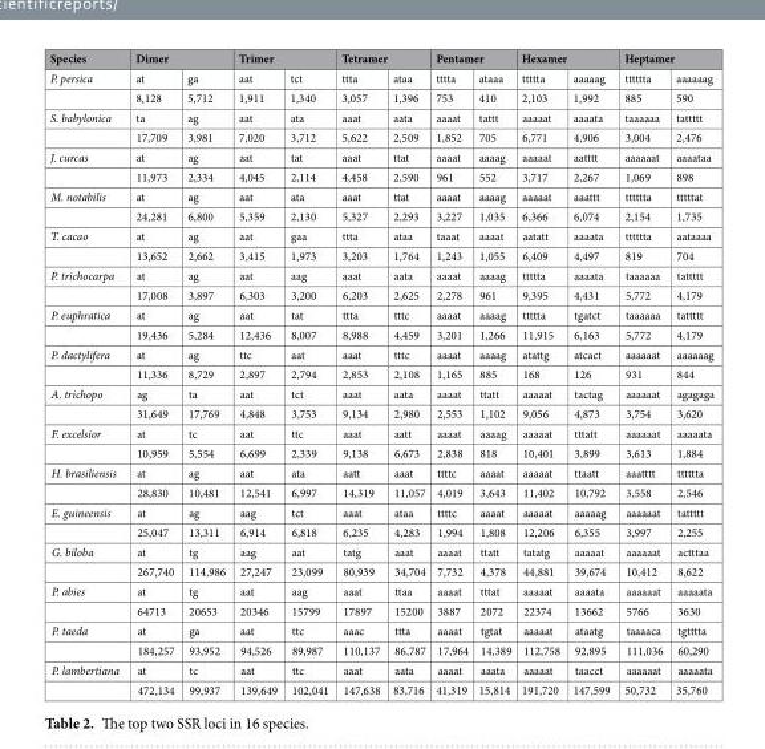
<table><thead><tr><td rowspan="2">Species P. persica</td><td colspan="2">Dimer</td><td colspan="2">Trimer</td><td colspan="2">Tetramer</td><td colspan="2">Pentamer</td><td colspan="2">Hexamer</td><td colspan="2">Heptamer</td></tr><tr><td>at</td><td>ga</td><td>aat</td><td>tct</td><td>ttta</td><td>ataa</td><td>tttta</td><td>ataaa</td><td>ttttta</td><td>aaaaag</td><td>tttttta</td><td>aaaaaag</td></tr></thead><tbody><tr><td></td><td>8,128</td><td>5,712</td><td>1,911</td><td>1,340</td><td>3,057</td><td>1,396</td><td>753</td><td>410</td><td>2,103</td><td>1,992</td><td>885</td><td>590</td></tr><tr><td rowspan="2">S. babylonica</td><td>ta</td><td>ag</td><td>aat</td><td>ata</td><td>aaat</td><td>aata</td><td>aaaat</td><td>tattt</td><td>aaaaat</td><td>aaaata</td><td>taaaaaa</td><td>tattttt</td></tr><tr><td>17,709</td><td>3,981</td><td>7,020</td><td>3,712</td><td>5,622</td><td>2,509</td><td>1,852</td><td>705</td><td>6,771</td><td>4,906</td><td>3,004</td><td>2,476</td></tr><tr><td rowspan="2">J. curcas</td><td>at</td><td>ag</td><td>aat</td><td>tat</td><td>aaat</td><td>ttat</td><td>aaaat</td><td>aaaag</td><td>aaaaat</td><td>aatttt</td><td>aaaaaat</td><td>aaaataa</td></tr><tr><td>11,973</td><td>2,334</td><td>4,045</td><td>2,114</td><td>4,458</td><td>2,590</td><td>961</td><td>552</td><td>3,717</td><td>2,267</td><td>1,069</td><td>898</td></tr><tr><td rowspan="2">M. notabilis</td><td>at</td><td>ag</td><td>aat</td><td>ata</td><td>aaat</td><td>ttat</td><td>aaaat</td><td>aaaag</td><td>aaaaat</td><td>aaattt</td><td>tttttta</td><td>tttttat</td></tr><tr><td>24,281</td><td>6,800</td><td>5,359</td><td>2,130</td><td>5,327</td><td>2,293</td><td>3,227</td><td>1,035</td><td>6,366</td><td>6,074</td><td>2,154</td><td>1,735</td></tr><tr><td rowspan="2">T. cacao</td><td>at</td><td>ag</td><td>aat</td><td>gaa</td><td>ttta</td><td>ataa</td><td>taaat</td><td>aaaat</td><td>aatatt</td><td>aaaata</td><td>tttttta</td><td>aataaaa</td></tr><tr><td>13,652</td><td>2,662</td><td>3,415</td><td>1,973</td><td>3,203</td><td>1,764</td><td>1,243</td><td>1,055</td><td>6,409</td><td>4,497</td><td>819</td><td>704</td></tr><tr><td rowspan="2">P. trichocarpa</td><td>at</td><td>ag</td><td>aat</td><td>aag</td><td>aaat</td><td>aata</td><td>aaaat</td><td>aaaag</td><td>ttttta</td><td>aaaata</td><td>taaaaaa</td><td>tattttt</td></tr><tr><td>17,008</td><td>3,897</td><td>6,303</td><td>3,200</td><td>6,203</td><td>2,625</td><td>2,278</td><td>961</td><td>9,395</td><td>4,431</td><td>5,772</td><td>4,179</td></tr><tr><td rowspan="2">P. euphratica</td><td>at</td><td>ag</td><td>aat</td><td>tat</td><td>ttta</td><td>tttc</td><td>aaaat</td><td>aaaag</td><td>ttttta</td><td>tgatct</td><td>taaaaaa</td><td>tattttt</td></tr><tr><td>19,436</td><td>5,284</td><td>12,436</td><td>8,007</td><td>8,988</td><td>4,459</td><td>3,201</td><td>1,266</td><td>11,915</td><td>6,163</td><td>5,772</td><td>4,179</td></tr><tr><td rowspan="2">P. dactylifera</td><td>at</td><td>ag</td><td>ttc</td><td>aat</td><td>aaat</td><td>tttc</td><td>aaaat</td><td>aaaag</td><td>atattg</td><td>atcact</td><td>aaaaaat</td><td>aaaaaag</td></tr><tr><td>11,336</td><td>8,729</td><td>2,897</td><td>2,794</td><td>2,853</td><td>2,108</td><td>1,165</td><td>885</td><td>168</td><td>126</td><td>931</td><td>844</td></tr><tr><td rowspan="2">A. trichopo</td><td>ag</td><td>ta</td><td>aat</td><td>tct</td><td>aaat</td><td>aata</td><td>aaaat</td><td>ttatt</td><td>aaaaat</td><td>tactag</td><td>aaaaaat</td><td>agagaga</td></tr><tr><td>31,649</td><td>17,769</td><td>4,848</td><td>3,753</td><td>9,134</td><td>2,980</td><td>2,553</td><td>1,102</td><td>9,056</td><td>4,873</td><td>3,754</td><td>3,620</td></tr><tr><td rowspan="2">F. excelsior</td><td>at</td><td>tc</td><td>aat</td><td>ttc</td><td>aaat</td><td>aatt</td><td>aaaat</td><td>aaaag</td><td>aaaaat</td><td>tttatt</td><td>aaaaaat</td><td>aaaaata</td></tr><tr><td>10,959</td><td>5,554</td><td>6,699</td><td>2,339</td><td>9,138</td><td>6,673</td><td>2,838</td><td>818</td><td>10,401</td><td>3,899</td><td>3,613</td><td>1,884</td></tr><tr><td rowspan="2">H. brasiliensis</td><td>at</td><td>ag</td><td>aat</td><td>ata</td><td>aatt</td><td>aaat</td><td>ttttc</td><td>aaaat</td><td>aaaaat</td><td>ttaatt</td><td>aaatttt</td><td>tttttta</td></tr><tr><td>28,830</td><td>10,481</td><td>12,541</td><td>6,997</td><td>14,319</td><td>11,057</td><td>4,019</td><td>3,643</td><td>11,402</td><td>10,792</td><td>3,558</td><td>2,546</td></tr><tr><td rowspan="2">E. guineensis</td><td>at</td><td>ag</td><td>aag</td><td>tct</td><td>aaat</td><td>ataa</td><td>ttttc</td><td>aaaat</td><td>aaaaat</td><td>aaaaag</td><td>aaaaaat</td><td>tattttt</td></tr><tr><td>25,047</td><td>13,311</td><td>6,914</td><td>6,818</td><td>6,235</td><td>4,283</td><td>1,994</td><td>1,808</td><td>12,206</td><td>6,355</td><td>3,997</td><td>2,255</td></tr><tr><td rowspan="2">G. biloba</td><td>at</td><td>tg</td><td>aag</td><td>aat</td><td>tatg</td><td>aaat</td><td>aaaat</td><td>ttatt</td><td>tatatg</td><td>aaaaat</td><td>aaaaaat</td><td>actttaa</td></tr><tr><td>267,740</td><td>114,986</td><td>27,247</td><td>23,099</td><td>80,939</td><td>34,704</td><td>7,732</td><td>4,378</td><td>44,881</td><td>39,674</td><td>10,412</td><td>8,622</td></tr><tr><td rowspan="2">P. abies</td><td>at</td><td>tg</td><td>aat</td><td>aag</td><td>aaat</td><td>ttaa</td><td>aaaat</td><td>tttat</td><td>aaaaat</td><td>aaaata</td><td>aaaaaat</td><td>aaaaata</td></tr><tr><td>64713</td><td>20653</td><td>20346</td><td>15799</td><td>17897</td><td>15200</td><td>3887</td><td>2072</td><td>22374</td><td>13662</td><td>5766</td><td>3630</td></tr><tr><td rowspan="2">P. taeda</td><td>at</td><td>ga</td><td>aat</td><td>ttc</td><td>aaac</td><td>ttta</td><td>aaaat</td><td>tgtat</td><td>aaaaat</td><td>ataatg</td><td>taaaaca</td><td>tgtttta</td></tr><tr><td>184,257</td><td>93,952</td><td>94,526</td><td>89,987</td><td>110,137</td><td>86,787</td><td>17,964</td><td>14,389</td><td>112,758</td><td>92,895</td><td>111,036</td><td>60,290</td></tr><tr><td rowspan="2">P. lambertiana</td><td>at</td><td>tc</td><td>aat</td><td>ttc</td><td>aaat</td><td>aata</td><td>aaaat</td><td>aaata</td><td>aaaaat</td><td>taacct</td><td>aaaaaat</td><td>aaaaata</td></tr><tr><td>472,134</td><td>99,937</td><td>139,649</td><td>102,041</td><td>147,638</td><td>83,716</td><td>41,319</td><td>15,814</td><td>191,720</td><td>147,599</td><td>50,732</td><td>35,760</td></tr></tbody></table>